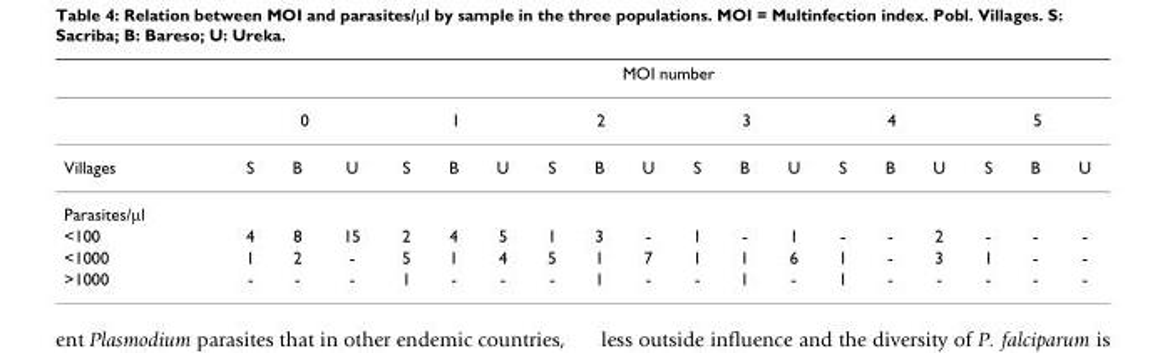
<table><thead><tr><td rowspan="3">Villages</td><td colspan="18">MOI number</td></tr><tr><td colspan="3">0</td><td colspan="3">1</td><td colspan="3">2</td><td colspan="3">3</td><td colspan="3">4</td><td colspan="3">5</td></tr><tr><td>S</td><td>B</td><td>U</td><td>S</td><td>B</td><td>U</td><td>S</td><td>B</td><td>U</td><td>S</td><td>B</td><td>U</td><td>S</td><td>B</td><td>U</td><td>S</td><td>B</td><td>U</td></tr></thead><tbody><tr><td colspan="19">Parasites/µl</td></tr><tr><td>&lt;100</td><td>4</td><td>8</td><td>15</td><td>2</td><td>4</td><td>5</td><td>1</td><td>3</td><td>-</td><td>1</td><td>-</td><td>1</td><td>-</td><td>-</td><td>2</td><td>-</td><td>-</td><td>-</td></tr><tr><td>&lt;1000</td><td>1</td><td>2</td><td>-</td><td>5</td><td>1</td><td>4</td><td>5</td><td>1</td><td>7</td><td>1</td><td>1</td><td>6</td><td>1</td><td>-</td><td>3</td><td>1</td><td>-</td><td>-</td></tr><tr><td>&gt;1000</td><td>-</td><td>-</td><td>-</td><td>1</td><td>-</td><td>-</td><td>-</td><td>1</td><td>-</td><td>-</td><td>1</td><td>-</td><td>1</td><td>-</td><td>-</td><td>-</td><td>-</td><td>-</td></tr></tbody></table>